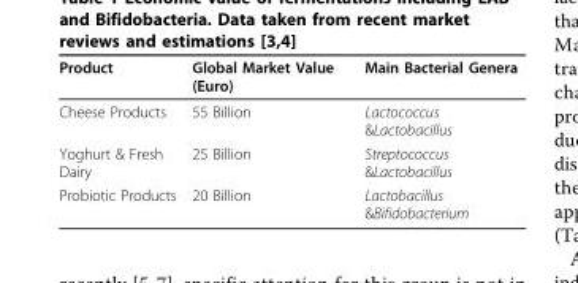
<table><thead><tr><td>Product</td><td>Global Market Value (Euro)</td><td>Main Bacterial Genera</td></tr></thead><tbody><tr><td>Cheese Products</td><td>55 Billion</td><td>Lactococcus &amp;Lactobacillus</td></tr><tr><td>Yoghurt &amp; Fresh Dairy</td><td>25 Billion</td><td>Streptococcus &amp;Lactobacillus</td></tr><tr><td>Probiotic Products</td><td>20 Billion</td><td>Lactobacillus &amp;Bifidobacterium</td></tr></tbody></table>